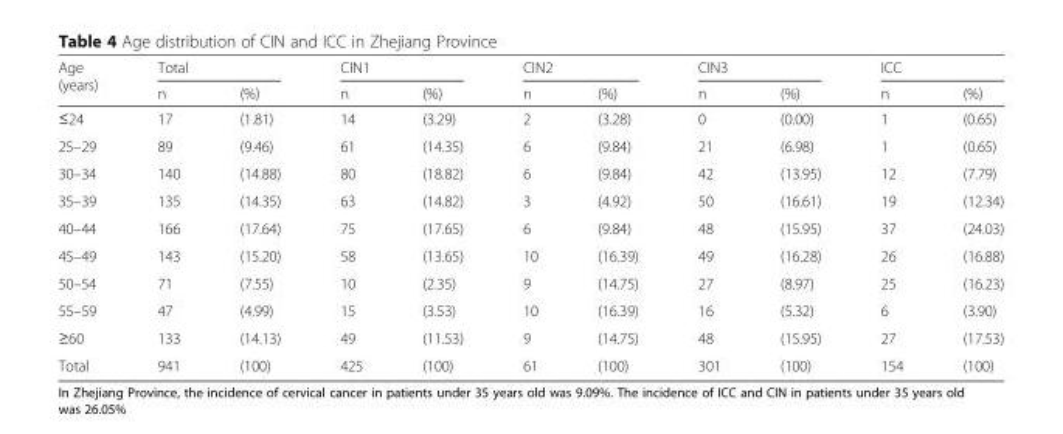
<table><thead><tr><td rowspan="2">Age (years)</td><td colspan="2">Total</td><td colspan="2">CIN1</td><td colspan="2">CIN2</td><td colspan="2">CIN3</td><td colspan="2">ICC</td></tr><tr><td>n</td><td>(%)</td><td>n</td><td>(%)</td><td>n</td><td>(%)</td><td>n</td><td>(%)</td><td>n</td><td>(%)</td></tr></thead><tbody><tr><td>≤24</td><td>17</td><td>(1.81)</td><td>14</td><td>(3.29)</td><td>2</td><td>(3.28)</td><td>0</td><td>(0.00)</td><td>1</td><td>(0.65)</td></tr><tr><td>25–29</td><td>89</td><td>(9.46)</td><td>61</td><td>(14.35)</td><td>6</td><td>(9.84)</td><td>21</td><td>(6.98)</td><td>1</td><td>(0.65)</td></tr><tr><td>30–34</td><td>140</td><td>(14.88)</td><td>80</td><td>(18.82)</td><td>6</td><td>(9.84)</td><td>42</td><td>(13.95)</td><td>12</td><td>(7.79)</td></tr><tr><td>35–39</td><td>135</td><td>(14.35)</td><td>63</td><td>(14.82)</td><td>3</td><td>(4.92)</td><td>50</td><td>(16.61)</td><td>19</td><td>(12.34)</td></tr><tr><td>40–44</td><td>166</td><td>(17.64)</td><td>75</td><td>(17.65)</td><td>6</td><td>(9.84)</td><td>48</td><td>(15.95)</td><td>37</td><td>(24.03)</td></tr><tr><td>45–49</td><td>143</td><td>(15.20)</td><td>58</td><td>(13.65)</td><td>10</td><td>(16.39)</td><td>49</td><td>(16.28)</td><td>26</td><td>(16.88)</td></tr><tr><td>50–54</td><td>71</td><td>(7.55)</td><td>10</td><td>(2.35)</td><td>9</td><td>(14.75)</td><td>27</td><td>(8.97)</td><td>25</td><td>(16.23)</td></tr><tr><td>55–59</td><td>47</td><td>(4.99)</td><td>15</td><td>(3.53)</td><td>10</td><td>(16.39)</td><td>16</td><td>(5.32)</td><td>6</td><td>(3.90)</td></tr><tr><td>≥60</td><td>133</td><td>(14.13)</td><td>49</td><td>(11.53)</td><td>9</td><td>(14.75)</td><td>48</td><td>(15.95)</td><td>27</td><td>(17.53)</td></tr><tr><td>Total</td><td>941</td><td>(100)</td><td>425</td><td>(100)</td><td>61</td><td>(100)</td><td>301</td><td>(100)</td><td>154</td><td>(100)</td></tr></tbody></table>